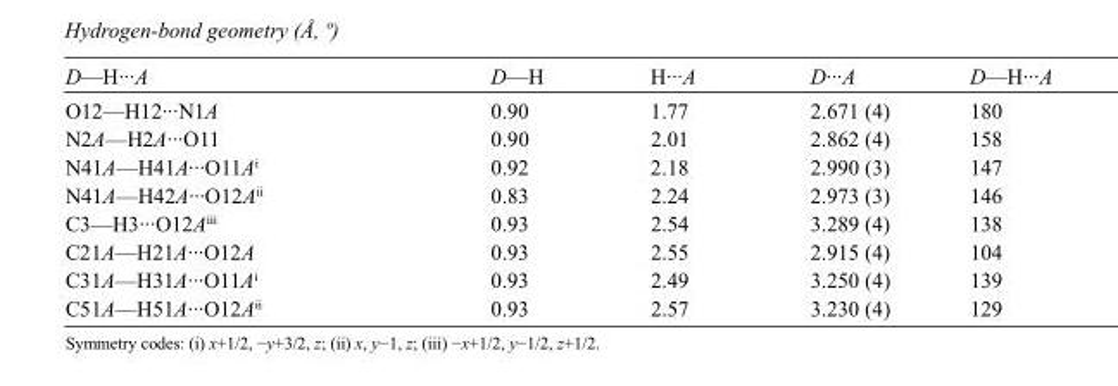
<table><tbody><tr><td>D—H···A</td><td>D—H</td><td>H···A</td><td>D···A</td><td>D—H···A</td></tr><tr><td>O12—H12···N1A</td><td>0.90</td><td>1.77</td><td>2.671 (4)</td><td>180</td></tr><tr><td>N2A—H2A···O11</td><td>0.90</td><td>2.01</td><td>2.862 (4)</td><td>158</td></tr><tr><td>N41A—H41A···O11A<sup>i</sup></td><td>0.92</td><td>2.18</td><td>2.990 (3)</td><td>147</td></tr><tr><td>N41A—H42A···O12A<sup>ii</sup></td><td>0.83</td><td>2.24</td><td>2.973 (3)</td><td>146</td></tr><tr><td>C3—H3···O12A<sup>iii</sup></td><td>0.93</td><td>2.54</td><td>3.289 (4)</td><td>138</td></tr><tr><td>C21A—H21A···O12A</td><td>0.93</td><td>2.55</td><td>2.915 (4)</td><td>104</td></tr><tr><td>C31A—H31A···O11A<sup>i</sup></td><td>0.93</td><td>2.49</td><td>3.250 (4)</td><td>139</td></tr><tr><td>C51A—H51A···O12A<sup>ii</sup></td><td>0.93</td><td>2.57</td><td>3.230 (4)</td><td>129</td></tr></tbody></table>